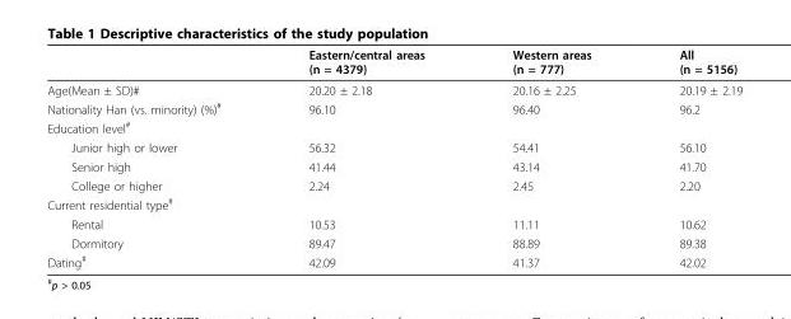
<table><thead><tr><td></td><td>Eastern/central areas (n = 4379)</td><td>Western areas (n = 777)</td><td>All (n = 5156)</td></tr></thead><tbody><tr><td>Age(Mean ± SD)#</td><td>20.20 ± 2.18</td><td>20.16 ± 2.25</td><td>20.19 ± 2.19</td></tr><tr><td>Nationality Han (vs. minority) (%)<sup>#</sup></td><td>96.10</td><td>96.40</td><td>96.2</td></tr><tr><td colspan="4">Education level<sup>#</sup></td></tr><tr><td>Junior high or lower</td><td>56.32</td><td>54.41</td><td>56.10</td></tr><tr><td>Senior high</td><td>41.44</td><td>43.14</td><td>41.70</td></tr><tr><td>College or higher</td><td>2.24</td><td>2.45</td><td>2.20</td></tr><tr><td colspan="4">Current residential type<sup>#</sup></td></tr><tr><td>Rental</td><td>10.53</td><td>11.11</td><td>10.62</td></tr><tr><td>Dormitory</td><td>89.47</td><td>88.89</td><td>89.38</td></tr><tr><td>Dating<sup>#</sup></td><td>42.09</td><td>41.37</td><td>42.02</td></tr></tbody></table>